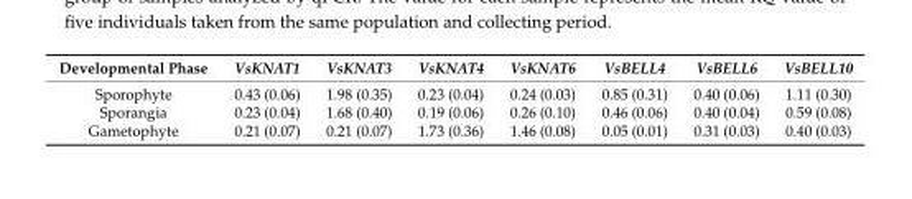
<table><thead><tr><td>Developmental Phase</td><td>VsKNAT1</td><td>VsKNAT3</td><td>VsKNAT4</td><td>VsKNAT6</td><td>VsBELL4</td><td>VsBELL6</td><td>VsBELL10</td></tr></thead><tbody><tr><td>Sporophyte</td><td>0.43 (0.06)</td><td>1.98 (0.35)</td><td>0.23 (0.04)</td><td>0.24 (0.03)</td><td>0.85 (0.31)</td><td>0.40 (0.06)</td><td>1.11 (0.30)</td></tr><tr><td>Sporangia</td><td>0.23 (0.04)</td><td>1.68 (0.40)</td><td>0.19 (0.06)</td><td>0.26 (0.10)</td><td>0.46 (0.06)</td><td>0.40 (0.04)</td><td>0.59 (0.08)</td></tr><tr><td>Gametophyte</td><td>0.21 (0.07)</td><td>0.21 (0.07)</td><td>1.73 (0.36)</td><td>1.46 (0.08)</td><td>0.05 (0.01)</td><td>0.31 (0.03)</td><td>0.40 (0.03)</td></tr></tbody></table>